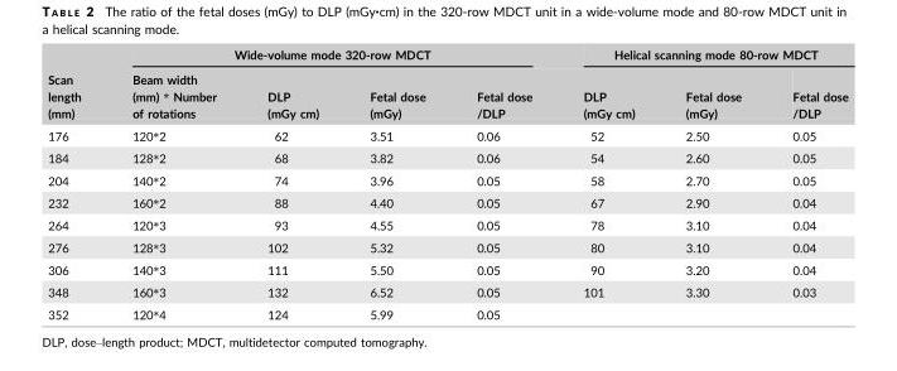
<table><thead><tr><td rowspan="2">Scan length (mm)</td><td colspan="4">Wide-volume mode 320-row MDCT</td><td colspan="3">Helical scanning mode 80-row MDCT</td></tr><tr><td>Beam width (mm) * Number of rotations</td><td>DLP (mGy cm)</td><td>Fetal dose (mGy)</td><td>Fetal dose /DLP</td><td>DLP (mGy cm)</td><td>Fetal dose (mGy)</td><td>Fetal dose /DLP</td></tr></thead><tbody><tr><td>176</td><td>120*2</td><td>62</td><td>3.51</td><td>0.06</td><td>52</td><td>2.50</td><td>0.05</td></tr><tr><td>184</td><td>128*2</td><td>68</td><td>3.82</td><td>0.06</td><td>54</td><td>2.60</td><td>0.05</td></tr><tr><td>204</td><td>140*2</td><td>74</td><td>3.96</td><td>0.05</td><td>58</td><td>2.70</td><td>0.05</td></tr><tr><td>232</td><td>160*2</td><td>88</td><td>4.40</td><td>0.05</td><td>67</td><td>2.90</td><td>0.04</td></tr><tr><td>264</td><td>120*3</td><td>93</td><td>4.55</td><td>0.05</td><td>78</td><td>3.10</td><td>0.04</td></tr><tr><td>276</td><td>128*3</td><td>102</td><td>5.32</td><td>0.05</td><td>80</td><td>3.10</td><td>0.04</td></tr><tr><td>306</td><td>140*3</td><td>111</td><td>5.50</td><td>0.05</td><td>90</td><td>3.20</td><td>0.04</td></tr><tr><td>348</td><td>160*3</td><td>132</td><td>6.52</td><td>0.05</td><td>101</td><td>3.30</td><td>0.03</td></tr><tr><td>352</td><td>120*4</td><td>124</td><td>5.99</td><td>0.05</td><td></td><td></td><td></td></tr></tbody></table>